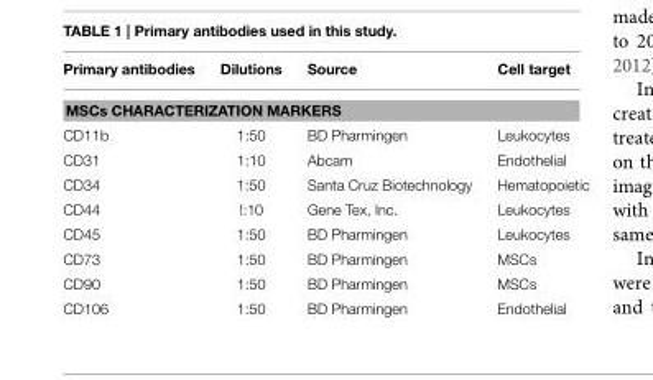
<table><thead><tr><td>Primary antibodies</td><td>Dilutions</td><td>Source</td><td>Cell target</td></tr></thead><tbody><tr><td colspan="4">MSCs CHARACTERIZATION MARKERS</td></tr><tr><td>CD11b</td><td>1:50</td><td>BD Pharmingen</td><td>Leukocytes</td></tr><tr><td>CD31</td><td>1:10</td><td>Abcam</td><td>Endothelial</td></tr><tr><td>CD34</td><td>1:50</td><td>Santa Cruz Biotechnology</td><td>Hematopoietic</td></tr><tr><td>CD44</td><td>!:10</td><td>Gene Tex, Inc.</td><td>Leukocytes</td></tr><tr><td>CD45</td><td>1:50</td><td>BD Pharmingen</td><td>Leukocytes</td></tr><tr><td>CD73</td><td>1:50</td><td>BD Pharmingen</td><td>MSCs</td></tr><tr><td>CD90</td><td>1:50</td><td>BD Pharmingen</td><td>MSCs</td></tr><tr><td>CD106</td><td>1:50</td><td>BD Pharmingen</td><td>Endothelial</td></tr></tbody></table>